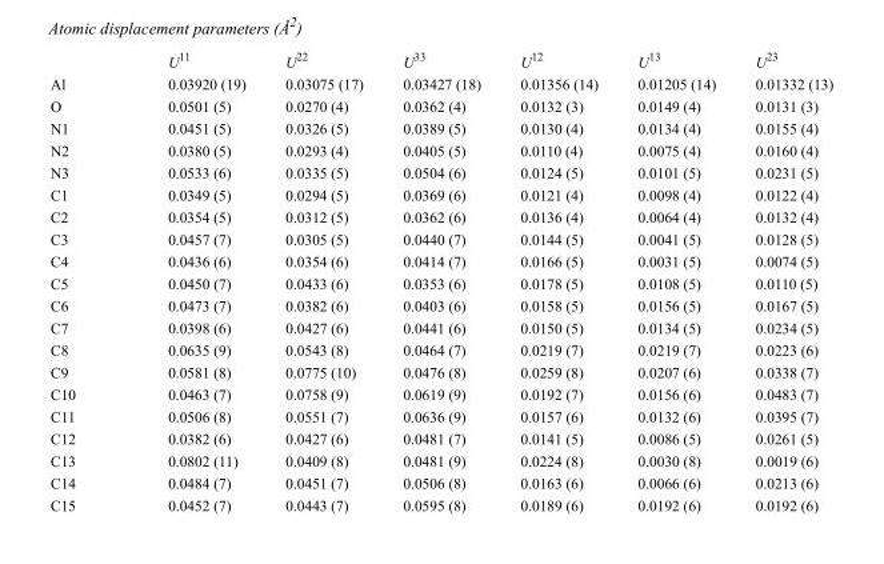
<table><thead><tr><td></td><td>U<sup>11</sup></td><td>U<sup>22</sup></td><td>U<sup>33</sup></td><td>U<sup>12</sup></td><td>U<sup>13</sup></td><td>U<sup>23</sup></td></tr></thead><tbody><tr><td>Al</td><td>0.03920 (19)</td><td>0.03075 (17)</td><td>0.03427 (18)</td><td>0.01356 (14)</td><td>0.01205 (14)</td><td>0.01332 (13)</td></tr><tr><td>O</td><td>0.0501 (5)</td><td>0.0270 (4)</td><td>0.0362 (4)</td><td>0.0132 (3)</td><td>0.0149 (4)</td><td>0.0131 (3)</td></tr><tr><td>N1</td><td>0.0451 (5)</td><td>0.0326 (5)</td><td>0.0389 (5)</td><td>0.0130 (4)</td><td>0.0134 (4)</td><td>0.0155 (4)</td></tr><tr><td>N2</td><td>0.0380 (5)</td><td>0.0293 (4)</td><td>0.0405 (5)</td><td>0.0110 (4)</td><td>0.0075 (4)</td><td>0.0160 (4)</td></tr><tr><td>N3</td><td>0.0533 (6)</td><td>0.0335 (5)</td><td>0.0504 (6)</td><td>0.0124 (5)</td><td>0.0101 (5)</td><td>0.0231 (5)</td></tr><tr><td>C1</td><td>0.0349 (5)</td><td>0.0294 (5)</td><td>0.0369 (6)</td><td>0.0121 (4)</td><td>0.0098 (4)</td><td>0.0122 (4)</td></tr><tr><td>C2</td><td>0.0354 (5)</td><td>0.0312 (5)</td><td>0.0362 (6)</td><td>0.0136 (4)</td><td>0.0064 (4)</td><td>0.0132 (4)</td></tr><tr><td>C3</td><td>0.0457 (7)</td><td>0.0305 (5)</td><td>0.0440 (7)</td><td>0.0144 (5)</td><td>0.0041 (5)</td><td>0.0128 (5)</td></tr><tr><td>C4</td><td>0.0436 (6)</td><td>0.0354 (6)</td><td>0.0414 (7)</td><td>0.0166 (5)</td><td>0.0031 (5)</td><td>0.0074 (5)</td></tr><tr><td>C5</td><td>0.0450 (7)</td><td>0.0433 (6)</td><td>0.0353 (6)</td><td>0.0178 (5)</td><td>0.0108 (5)</td><td>0.0110 (5)</td></tr><tr><td>C6</td><td>0.0473 (7)</td><td>0.0382 (6)</td><td>0.0403 (6)</td><td>0.0158 (5)</td><td>0.0156 (5)</td><td>0.0167 (5)</td></tr><tr><td>C7</td><td>0.0398 (6)</td><td>0.0427 (6)</td><td>0.0441 (6)</td><td>0.0150 (5)</td><td>0.0134 (5)</td><td>0.0234 (5)</td></tr><tr><td>C8</td><td>0.0635 (9)</td><td>0.0543 (8)</td><td>0.0464 (7)</td><td>0.0219 (7)</td><td>0.0219 (7)</td><td>0.0223 (6)</td></tr><tr><td>C9</td><td>0.0581 (8)</td><td>0.0775 (10)</td><td>0.0476 (8)</td><td>0.0259 (8)</td><td>0.0207 (6)</td><td>0.0338 (7)</td></tr><tr><td>C10</td><td>0.0463 (7)</td><td>0.0758 (9)</td><td>0.0619 (9)</td><td>0.0192 (7)</td><td>0.0156 (6)</td><td>0.0483 (7)</td></tr><tr><td>C11</td><td>0.0506 (8)</td><td>0.0551 (7)</td><td>0.0636 (9)</td><td>0.0157 (6)</td><td>0.0132 (6)</td><td>0.0395 (7)</td></tr><tr><td>C12</td><td>0.0382 (6)</td><td>0.0427 (6)</td><td>0.0481 (7)</td><td>0.0141 (5)</td><td>0.0086 (5)</td><td>0.0261 (5)</td></tr><tr><td>C13</td><td>0.0802 (11)</td><td>0.0409 (8)</td><td>0.0481 (9)</td><td>0.0224 (8)</td><td>0.0030 (8)</td><td>0.0019 (6)</td></tr><tr><td>C14</td><td>0.0484 (7)</td><td>0.0451 (7)</td><td>0.0506 (8)</td><td>0.0163 (6)</td><td>0.0066 (6)</td><td>0.0213 (6)</td></tr><tr><td>C15</td><td>0.0452 (7)</td><td>0.0443 (7)</td><td>0.0595 (8)</td><td>0.0189 (6)</td><td>0.0192 (6)</td><td>0.0192 (6)</td></tr></tbody></table>